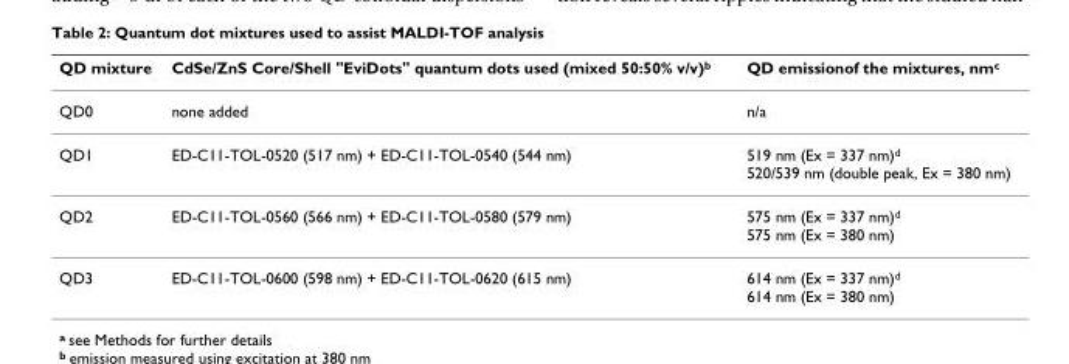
<table><thead><tr><td>QD mixture</td><td>CdSe/ZnS Core/Shell &quot;EviDots&quot; quantum dots used (mixed 50:50% v/v)<sup>b</sup></td><td>QD emissionof the mixtures, nm<sup>c</sup></td></tr></thead><tbody><tr><td>QD0</td><td>none added</td><td>n/a</td></tr><tr><td>QD1</td><td>ED-C11-TOL-0520 (517 nm) + ED-C11-TOL-0540 (544 nm)</td><td>519 nm (Ex = 337 nm)<sup>d</sup> 520/539 nm (double peak, Ex = 380 nm)</td></tr><tr><td>QD2</td><td>ED-C11-TOL-0560 (566 nm) + ED-C11-TOL-0580 (579 nm)</td><td>575 nm (Ex = 337 nm)<sup>d</sup> 575 nm (Ex = 380 nm)</td></tr><tr><td>QD3</td><td>ED-C11-TOL-0600 (598 nm) + ED-C11-TOL-0620 (615 nm)</td><td>614 nm (Ex = 337 nm)<sup>d</sup> 614 nm (Ex = 380 nm)</td></tr></tbody></table>